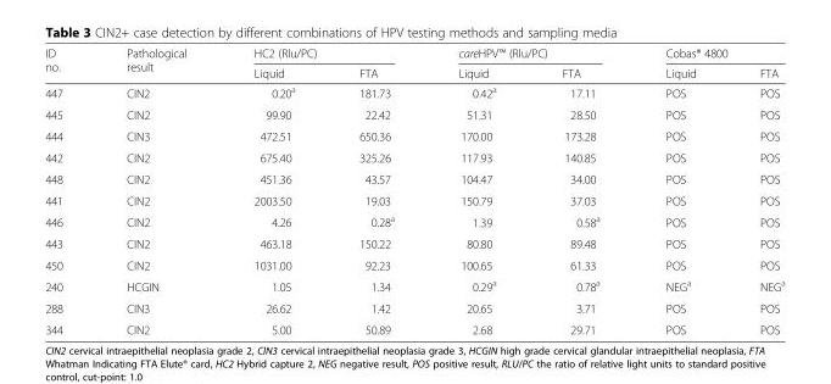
<table><thead><tr><td rowspan="2">ID no.</td><td rowspan="2">Pathological result</td><td colspan="2">HC2 (Rlu/PC)</td><td colspan="2">careHPV™ (Rlu/PC)</td><td colspan="2">Cobas® 4800</td></tr><tr><td>Liquid</td><td>FTA</td><td>Liquid</td><td>FTA</td><td>Liquid</td><td>FTA</td></tr></thead><tbody><tr><td>447</td><td>CIN2</td><td>0.20<sup>a</sup></td><td>181.73</td><td>0.42<sup>a</sup></td><td>17.11</td><td>POS</td><td>POS</td></tr><tr><td>445</td><td>CIN2</td><td>99.90</td><td>22.42</td><td>51.31</td><td>28.50</td><td>POS</td><td>POS</td></tr><tr><td>444</td><td>CIN3</td><td>472.51</td><td>650.36</td><td>170.00</td><td>173.28</td><td>POS</td><td>POS</td></tr><tr><td>442</td><td>CIN2</td><td>675.40</td><td>325.26</td><td>117.93</td><td>140.85</td><td>POS</td><td>POS</td></tr><tr><td>448</td><td>CIN2</td><td>451.36</td><td>43.57</td><td>104.47</td><td>34.00</td><td>POS</td><td>POS</td></tr><tr><td>441</td><td>CIN2</td><td>2003.50</td><td>19.03</td><td>150.79</td><td>37.03</td><td>POS</td><td>POS</td></tr><tr><td>446</td><td>CIN2</td><td>4.26</td><td>0.28<sup>a</sup></td><td>1.39</td><td>0.58<sup>a</sup></td><td>POS</td><td>POS</td></tr><tr><td>443</td><td>CIN2</td><td>463.18</td><td>150.22</td><td>80.80</td><td>89.48</td><td>POS</td><td>POS</td></tr><tr><td>450</td><td>CIN2</td><td>1031.00</td><td>92.23</td><td>100.65</td><td>61.33</td><td>POS</td><td>POS</td></tr><tr><td>240</td><td>HCGIN</td><td>1.05</td><td>1.34</td><td>0.29<sup>a</sup></td><td>0.78<sup>a</sup></td><td>NEG<sup>a</sup></td><td>NEG<sup>a</sup></td></tr><tr><td>288</td><td>CIN3</td><td>26.62</td><td>1.42</td><td>20.65</td><td>3.71</td><td>POS</td><td>POS</td></tr><tr><td>344</td><td>CIN2</td><td>5.00</td><td>50.89</td><td>2.68</td><td>29.71</td><td>POS</td><td>POS</td></tr></tbody></table>